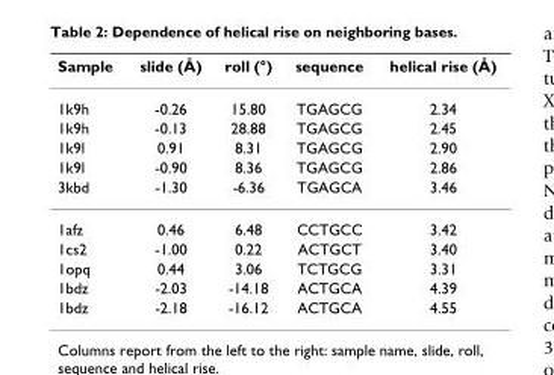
<table><thead><tr><td>Sample</td><td>slide (Å)</td><td>roll (°)</td><td>sequence</td><td>helical rise (Å)</td></tr></thead><tbody><tr><td>1k9h</td><td>-0.26</td><td>15.80</td><td>TGAGCG</td><td>2.34</td></tr><tr><td>1k9h</td><td>-0.13</td><td>28.88</td><td>TGAGCG</td><td>2.45</td></tr><tr><td>1k9l</td><td>0.91</td><td>8.31</td><td>TGAGCG</td><td>2.90</td></tr><tr><td>1k9l</td><td>-0.90</td><td>8.36</td><td>TGAGCG</td><td>2.86</td></tr><tr><td>3kbd</td><td>-1.30</td><td>-6.36</td><td>TGAGCA</td><td>3.46</td></tr><tr><td>1afz</td><td>0.46</td><td>6.48</td><td>CCTGCC</td><td>3.42</td></tr><tr><td>1cs2</td><td>-1.00</td><td>0.22</td><td>ACTGCT</td><td>3.40</td></tr><tr><td>1opq</td><td>0.44</td><td>3.06</td><td>TCTGCG</td><td>3.31</td></tr><tr><td>1bdz</td><td>-2.03</td><td>-14.18</td><td>ACTGCA</td><td>4.39</td></tr><tr><td>1bdz</td><td>-2.18</td><td>-16.12</td><td>ACTGCA</td><td>4.55</td></tr></tbody></table>